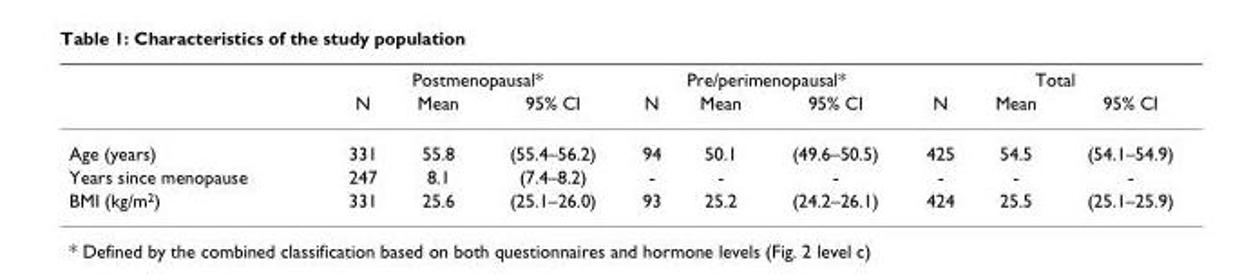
<table><thead><tr><td rowspan="2"></td><td colspan="3">Postmenopausal*</td><td colspan="3">Pre/perimenopausal*</td><td colspan="3">Total</td></tr><tr><td>N</td><td>Mean</td><td>95% CI</td><td>N</td><td>Mean</td><td>95% CI</td><td>N</td><td>Mean</td><td>95% CI</td></tr></thead><tbody><tr><td>Age (years)</td><td>331</td><td>55.8</td><td>(55.4–56.2)</td><td>94</td><td>50.1</td><td>(49.6–50.5)</td><td>425</td><td>54.5</td><td>(54.1–54.9)</td></tr><tr><td>Years since menopause</td><td>247</td><td>8.1</td><td>(7.4–8.2)</td><td>-</td><td>-</td><td>-</td><td>-</td><td>-</td><td>-</td></tr><tr><td>BMI (kg/m<sup>2</sup>)</td><td>331</td><td>25.6</td><td>(25.1–26.0)</td><td>93</td><td>25.2</td><td>(24.2–26.1)</td><td>424</td><td>25.5</td><td>(25.1–25.9)</td></tr></tbody></table>